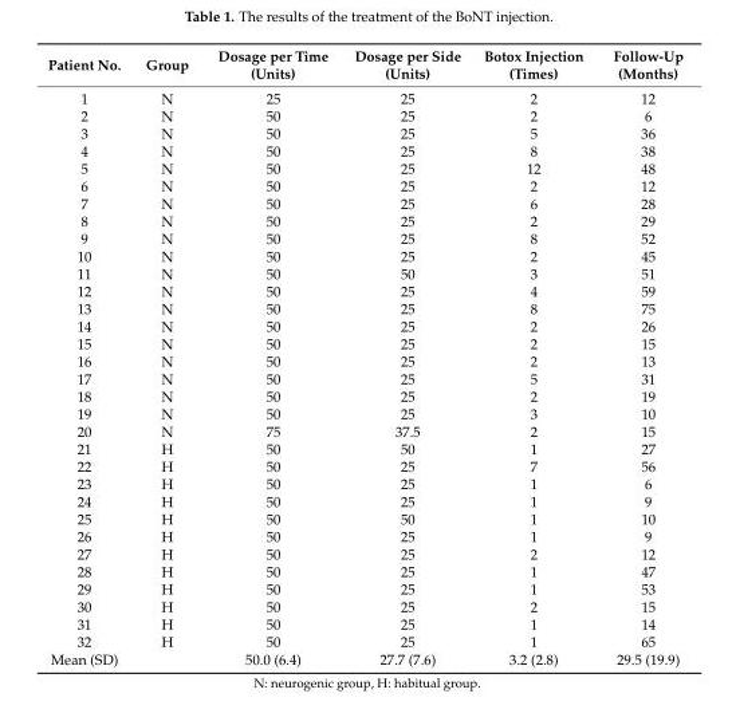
<table><thead><tr><td>Patient No.</td><td>Group</td><td>Dosage per Time (Units)</td><td>Dosage per Side (Units)</td><td>Botox Injection (Times)</td><td>Follow-Up (Months)</td></tr></thead><tbody><tr><td>1</td><td>N</td><td>25</td><td>25</td><td>2</td><td>12</td></tr><tr><td>2</td><td>N</td><td>50</td><td>25</td><td>2</td><td>6</td></tr><tr><td>3</td><td>N</td><td>50</td><td>25</td><td>5</td><td>36</td></tr><tr><td>4</td><td>N</td><td>50</td><td>25</td><td>8</td><td>38</td></tr><tr><td>5</td><td>N</td><td>50</td><td>25</td><td>12</td><td>48</td></tr><tr><td>6</td><td>N</td><td>50</td><td>25</td><td>2</td><td>12</td></tr><tr><td>7</td><td>N</td><td>50</td><td>25</td><td>6</td><td>28</td></tr><tr><td>8</td><td>N</td><td>50</td><td>25</td><td>2</td><td>29</td></tr><tr><td>9</td><td>N</td><td>50</td><td>25</td><td>8</td><td>52</td></tr><tr><td>10</td><td>N</td><td>50</td><td>25</td><td>2</td><td>45</td></tr><tr><td>11</td><td>N</td><td>50</td><td>50</td><td>3</td><td>51</td></tr><tr><td>12</td><td>N</td><td>50</td><td>25</td><td>4</td><td>59</td></tr><tr><td>13</td><td>N</td><td>50</td><td>25</td><td>8</td><td>75</td></tr><tr><td>14</td><td>N</td><td>50</td><td>25</td><td>2</td><td>26</td></tr><tr><td>15</td><td>N</td><td>50</td><td>25</td><td>2</td><td>15</td></tr><tr><td>16</td><td>N</td><td>50</td><td>25</td><td>2</td><td>13</td></tr><tr><td>17</td><td>N</td><td>50</td><td>25</td><td>5</td><td>31</td></tr><tr><td>18</td><td>N</td><td>50</td><td>25</td><td>2</td><td>19</td></tr><tr><td>19</td><td>N</td><td>50</td><td>25</td><td>3</td><td>10</td></tr><tr><td>20</td><td>N</td><td>75</td><td>37.5</td><td>2</td><td>15</td></tr><tr><td>21</td><td>H</td><td>50</td><td>50</td><td>1</td><td>27</td></tr><tr><td>22</td><td>H</td><td>50</td><td>25</td><td>7</td><td>56</td></tr><tr><td>23</td><td>H</td><td>50</td><td>25</td><td>1</td><td>6</td></tr><tr><td>24</td><td>H</td><td>50</td><td>25</td><td>1</td><td>9</td></tr><tr><td>25</td><td>H</td><td>50</td><td>50</td><td>1</td><td>10</td></tr><tr><td>26</td><td>H</td><td>50</td><td>25</td><td>1</td><td>9</td></tr><tr><td>27</td><td>H</td><td>50</td><td>25</td><td>2</td><td>12</td></tr><tr><td>28</td><td>H</td><td>50</td><td>25</td><td>1</td><td>47</td></tr><tr><td>29</td><td>H</td><td>50</td><td>25</td><td>1</td><td>53</td></tr><tr><td>30</td><td>H</td><td>50</td><td>25</td><td>2</td><td>15</td></tr><tr><td>31</td><td>H</td><td>50</td><td>25</td><td>1</td><td>14</td></tr><tr><td>32</td><td>H</td><td>50</td><td>25</td><td>1</td><td>65</td></tr><tr><td>Mean (SD)</td><td></td><td>50.0 (6.4)</td><td>27.7 (7.6)</td><td>3.2 (2.8)</td><td>29.5 (19.9)</td></tr></tbody></table>